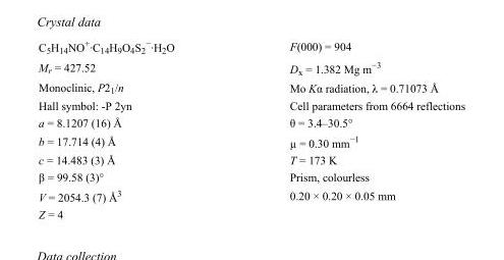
<table><tbody><tr><td>C<sub>5</sub>H<sub>14</sub>NO<sup>+</sup>·C<sub>14</sub>H<sub>9</sub>O<sub>4</sub>S<sub>2</sub> <sup>−</sup>·H<sub>2</sub>O</td><td>F(000) = 904</td></tr><tr><td>M<sub>r</sub> = 427.52</td><td>D<sub>x</sub> = 1.382 Mg m<sup>−3</sup></td></tr><tr><td>Monoclinic, P2<sub>1</sub>/n</td><td>Mo Kα radiation, λ = 0.71073 Å</td></tr><tr><td>Hall symbol: -P 2yn</td><td>Cell parameters from 6664 reflections</td></tr><tr><td>a = 8.1207 (16) Å</td><td>θ = 3.4–30.5°</td></tr><tr><td>b = 17.714 (4) Å</td><td>µ = 0.30 mm<sup>−1</sup></td></tr><tr><td>c = 14.483 (3) Å</td><td>T = 173 K</td></tr><tr><td>β = 99.58 (3)°</td><td>Prism, colourless</td></tr><tr><td>V = 2054.3 (7) Å<sup>3</sup></td><td>0.20 × 0.20 × 0.05 mm</td></tr><tr><td>Z = 4</td><td></td></tr></tbody></table>